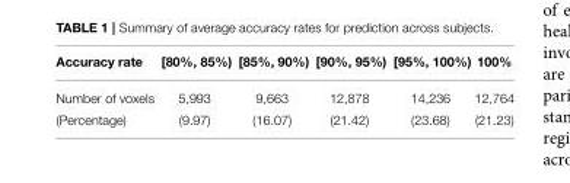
<table><thead><tr><td>Accuracy rate</td><td>[80%, 85%)</td><td>[85%, 90%)</td><td>[90%, 95%)</td><td>[95%, 100%)</td><td>100%</td></tr></thead><tbody><tr><td>Number of voxels</td><td>5,993</td><td>9,663</td><td>12,878</td><td>14,236</td><td>12,764</td></tr><tr><td>(Percentage)</td><td>(9.97)</td><td>(16.07)</td><td>(21.42)</td><td>(23.68)</td><td>(21.23)</td></tr></tbody></table>